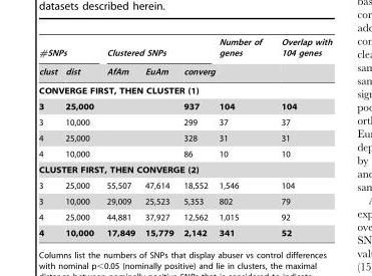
<table><thead><tr><td colspan="2">#SNPs</td><td colspan="3">Clustered SNPs</td><td rowspan="2">Number of genes</td><td rowspan="2">Overlap with 104 genes</td></tr><tr><td>clust</td><td>dist</td><td>AfAm</td><td>EuAm</td><td>converg</td></tr></thead><tbody><tr><td colspan="7">CONVERGE FIRST, THEN CLUSTER (1)</td></tr><tr><td>3</td><td>25,000</td><td></td><td></td><td>937</td><td>104</td><td>104</td></tr><tr><td>3</td><td>10,000</td><td></td><td></td><td>299</td><td>37</td><td>37</td></tr><tr><td>4</td><td>25,000</td><td></td><td></td><td>328</td><td>31</td><td>31</td></tr><tr><td>4</td><td>10,000</td><td></td><td></td><td>86</td><td>10</td><td>10</td></tr><tr><td colspan="7">CLUSTER FIRST, THEN CONVERGE (2)</td></tr><tr><td>3</td><td>25,000</td><td>55,507</td><td>47,614</td><td>18,552</td><td>1,546</td><td>104</td></tr><tr><td>3</td><td>10,000</td><td>29,009</td><td>25,523</td><td>5,353</td><td>802</td><td>79</td></tr><tr><td>4</td><td>25,000</td><td>44,881</td><td>37,927</td><td>12,562</td><td>1,015</td><td>92</td></tr><tr><td>4</td><td>10,000</td><td>17,849</td><td>15,779</td><td>2,142</td><td>341</td><td>52</td></tr></tbody></table>